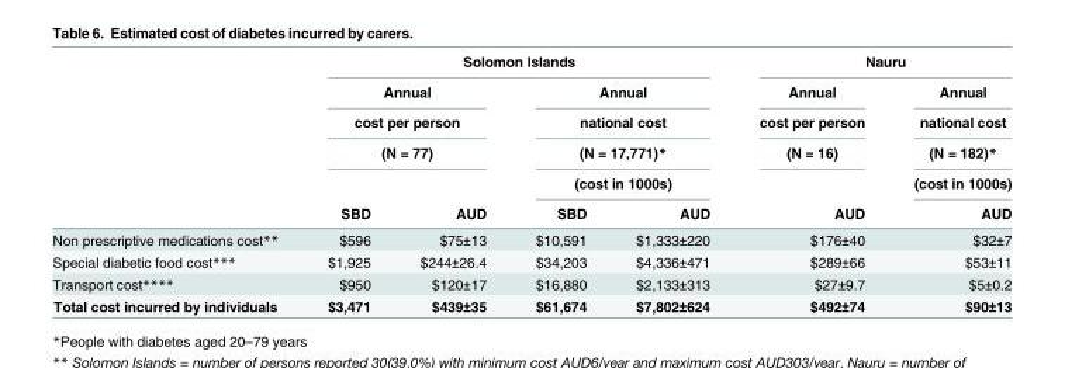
<table><thead><tr><td rowspan="6"></td><td colspan="3">Solomon Islands</td><td colspan="3">Nauru</td></tr><tr><td rowspan="3" colspan="2">Annual cost per person (N = 77)</td><td rowspan="4" colspan="2">Annual national cost (N = 17,771)* (cost in 1000s)</td><td rowspan="5">Annual cost per person (N = 16) AUD</td><td rowspan="5">Annual national cost (N = 182)* (cost in 1000s) AUD</td></tr><tr></tr><tr></tr><tr><td rowspan="2">SBD</td><td rowspan="2">AUD</td></tr><tr><td>SBD</td><td>AUD</td></tr></thead><tbody><tr><td>Non prescriptive medications cost**</td><td>$596</td><td>$75±13</td><td>$10,591</td><td>$1,333±220</td><td>$176±40</td><td>$32±7</td></tr><tr><td>Special diabetic food cost***</td><td>$1,925</td><td>$244±26.4</td><td>$34,203</td><td>$4,336±471</td><td>$289±66</td><td>$53±11</td></tr><tr><td>Transport cost****</td><td>$950</td><td>$120±17</td><td>$16,880</td><td>$2,133±313</td><td>$27±9.7</td><td>$5±0.2</td></tr><tr><td>Total cost incurred by individuals</td><td>$3,471</td><td>$439±35</td><td>$61,674</td><td>$7,802±624</td><td>$492±74</td><td>$90±13</td></tr></tbody></table>